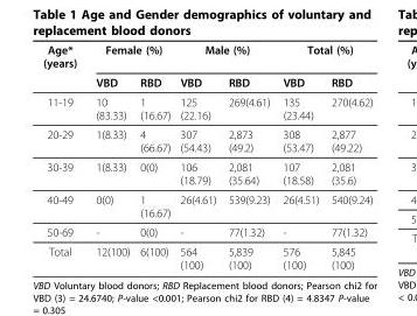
<table><thead><tr><td rowspan="2">Age* (years)</td><td colspan="2">Female (%)</td><td colspan="2">Male (%)</td><td colspan="2">Total (%)</td></tr><tr><td>VBD</td><td>RBD</td><td>VBD</td><td>RBD</td><td>VBD</td><td>RBD</td></tr></thead><tbody><tr><td>11-19</td><td>10 (83.33)</td><td>1 (16.67)</td><td>125 (22.16)</td><td>269(4.61)</td><td>135 (23.44)</td><td>270(4.62)</td></tr><tr><td>20-29</td><td>1(8.33)</td><td>4 (66.67)</td><td>307 (54.43)</td><td>2,873 (49.2)</td><td>308 (53.47)</td><td>2,877 (49.22)</td></tr><tr><td>30-39</td><td>1(8.33)</td><td>0(0)</td><td>106 (18.79)</td><td>2,081 (35.64)</td><td>107 (18.58)</td><td>2,081 (35.6)</td></tr><tr><td>40-49</td><td>0(0)</td><td>1 (16.67)</td><td>26(4.61)</td><td>539(9.23)</td><td>26(4.51)</td><td>540(9.24)</td></tr><tr><td>50-69</td><td>-</td><td>0(0)</td><td>-</td><td>77(1.32)</td><td>-</td><td>77(1.32)</td></tr><tr><td>Total</td><td>12(100)</td><td>6(100)</td><td>564 (100)</td><td>5,839 (100)</td><td>576 (100)</td><td>5,845 (100)</td></tr></tbody></table>